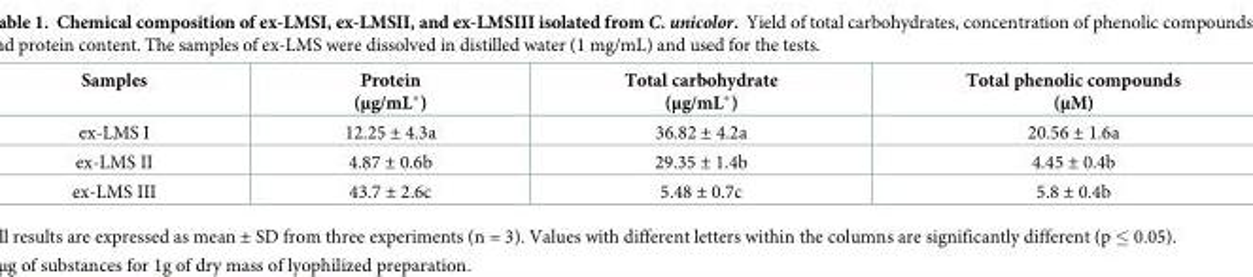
<table><thead><tr><td>Samples</td><td>Protein (μg/mL*)</td><td>Total carbohydrate (μg/mL*)</td><td>Total phenolic compounds (μM)</td></tr></thead><tbody><tr><td>ex-LMS I</td><td>12.25 ± 4.3a</td><td>36.82 ± 4.2a</td><td>20.56 ± 1.6a</td></tr><tr><td>ex-LMS II</td><td>4.87 ± 0.6b</td><td>29.35 ± 1.4b</td><td>4.45 ± 0.4b</td></tr><tr><td>ex-LMS III</td><td>43.7 ± 2.6c</td><td>5.48 ± 0.7c</td><td>5.8 ± 0.4b</td></tr></tbody></table>